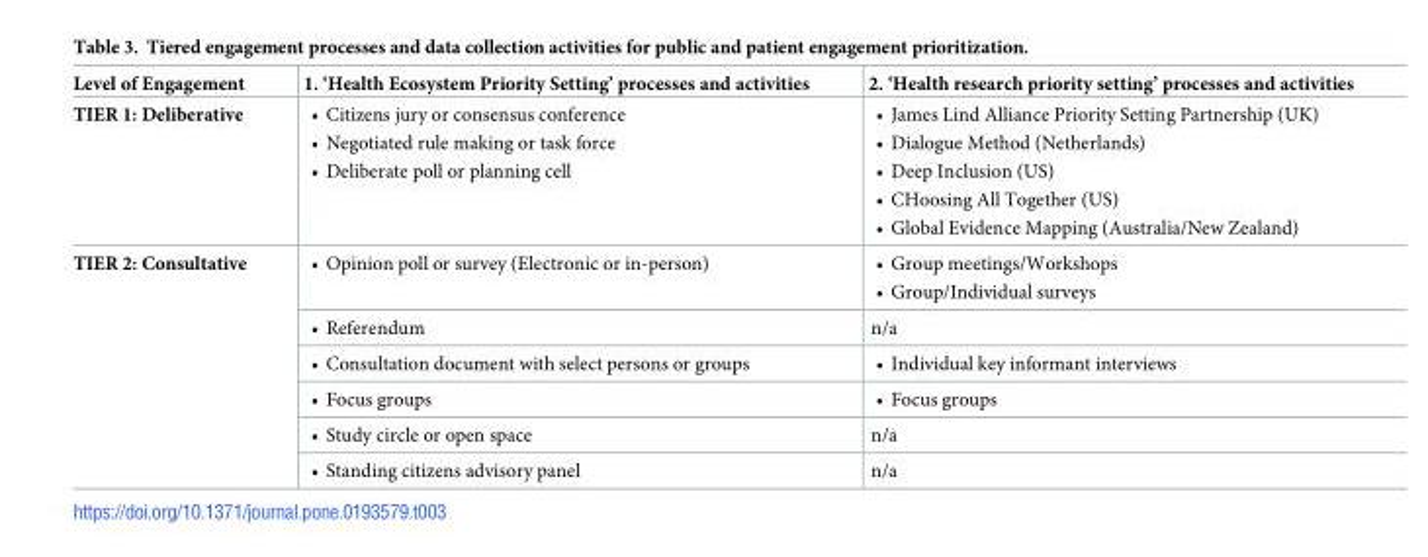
<table><thead><tr><td>Level of Engagement</td><td>1. ‘Health Ecosystem Priority Setting’ processes and activities</td><td>2. ‘Health research priority setting’ processes and activities</td></tr></thead><tbody><tr><td>TIER 1: Deliberative</td><td>• Citizens jury or consensus conference • Negotiated rule making or task force • Deliberate poll or planning cell</td><td>• James Lind Alliance Priority Setting Partnership (UK) • Dialogue Method (Netherlands) • Deep Inclusion (US) • CHoosing All Together (US) • Global Evidence Mapping (Australia/New Zealand)</td></tr><tr><td rowspan="6">TIER 2: Consultative</td><td>• Opinion poll or survey (Electronic or in-person)</td><td>• Group meetings/Workshops • Group/Individual surveys</td></tr><tr><td>• Referendum</td><td>n/a</td></tr><tr><td>• Consultation document with select persons or groups</td><td>• Individual key informant interviews</td></tr><tr><td>• Focus groups</td><td>• Focus groups</td></tr><tr><td>• Study circle or open space</td><td>n/a</td></tr><tr><td>• Standing citizens advisory panel</td><td>n/a</td></tr></tbody></table>